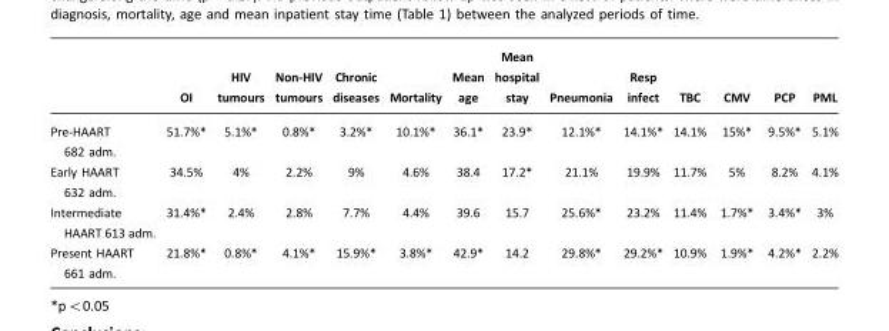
<table><thead><tr><td></td><td>OI</td><td>HIV tumours</td><td>Non-HIV tumours</td><td>Chronic diseases</td><td>Mortality</td><td>Mean age</td><td>Mean hospital stay</td><td>Pneumonia</td><td>Resp infect</td><td>TBC</td><td>CMV</td><td>PCP</td><td>PML</td></tr></thead><tbody><tr><td>Pre-HAART 682 adm.</td><td>51.7%*</td><td>5.1%*</td><td>0.8%*</td><td>3.2%*</td><td>10.1%*</td><td>36.1*</td><td>23.9*</td><td>12.1%*</td><td>14.1%*</td><td>14.1%</td><td>15%*</td><td>9.5%*</td><td>5.1%</td></tr><tr><td>Early HAART 632 adm.</td><td>34.5%</td><td>4%</td><td>2.2%</td><td>9%</td><td>4.6%</td><td>38.4</td><td>17.2*</td><td>21.1%</td><td>19.9%</td><td>11.7%</td><td>5%</td><td>8.2%</td><td>4.1%</td></tr><tr><td>Intermediate HAART 613 adm.</td><td>31.4%*</td><td>2.4%</td><td>2.8%</td><td>7.7%</td><td>4.4%</td><td>39.6</td><td>15.7</td><td>25.6%*</td><td>23.2%</td><td>11.4%</td><td>1.7%*</td><td>3.4%*</td><td>3%</td></tr><tr><td>Present HAART 661 adm.</td><td>21.8%*</td><td>0.8%*</td><td>4.1%*</td><td>15.9%*</td><td>3.8%*</td><td>42.9*</td><td>14.2</td><td>29.8%*</td><td>29.2%*</td><td>10.9%</td><td>1.9%*</td><td>4.2%*</td><td>2.2%</td></tr></tbody></table>